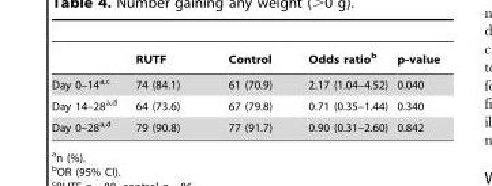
<table><thead><tr><td></td><td>RUTF</td><td>Control</td><td>Odds ratio<sup>b</sup></td><td>p-value</td></tr></thead><tbody><tr><td>Day 0–14a,c</td><td>74 (84.1)</td><td>61 (70.9)</td><td>2.17 (1.04–4.52)</td><td>0.040</td></tr><tr><td>Day 14–28a,d</td><td>64 (73.6)</td><td>67 (79.8)</td><td>0.71 (0.35–1.44)</td><td>0.340</td></tr><tr><td>Day 0–28a,d</td><td>79 (90.8)</td><td>77 (91.7)</td><td>0.90 (0.31–2.60)</td><td>0.842</td></tr></tbody></table>